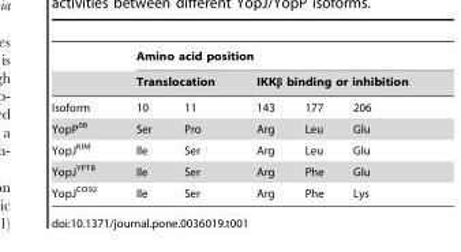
<table><thead><tr><td rowspan="3">Isoform</td><td colspan="5">Amino acid position</td></tr><tr><td colspan="2">Translocation</td><td colspan="3">IKKβ binding or inhibition</td></tr><tr><td>10</td><td>11</td><td>143</td><td>177</td><td>206</td></tr></thead><tbody><tr><td>YopP<sup>08</sup></td><td>Ser</td><td>Pro</td><td>Arg</td><td>Leu</td><td>Glu</td></tr><tr><td>YopJ<sup>KIM</sup></td><td>Ile</td><td>Ser</td><td>Arg</td><td>Leu</td><td>Glu</td></tr><tr><td>YopJ<sup>YPTB</sup></td><td>Ile</td><td>Ser</td><td>Arg</td><td>Phe</td><td>Glu</td></tr><tr><td>YopJ<sup>CO92</sup></td><td>Ile</td><td>Ser</td><td>Arg</td><td>Phe</td><td>Lys</td></tr></tbody></table>